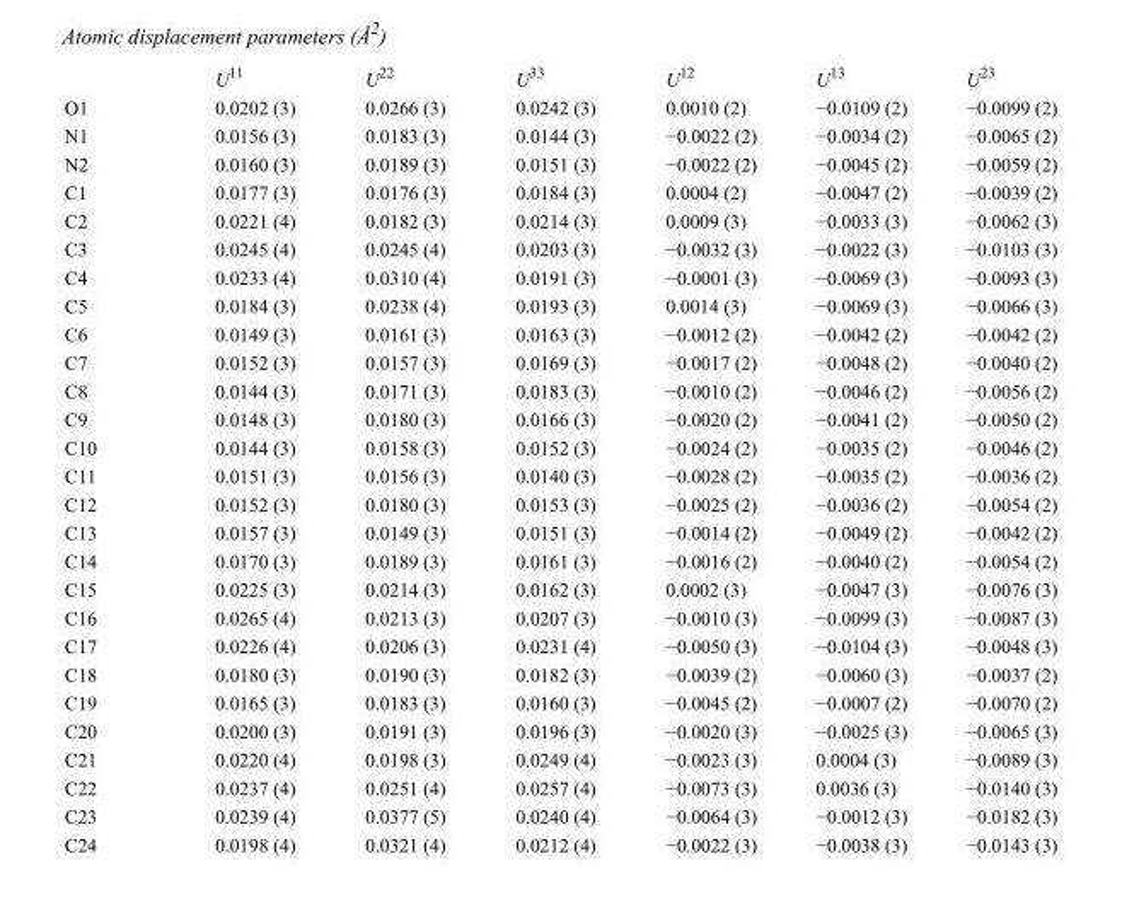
<table><thead><tr><td></td><td>U<sup>11</sup></td><td>U<sup>22</sup></td><td>U<sup>33</sup></td><td>U<sup>12</sup></td><td>U<sup>13</sup></td><td>U<sup>23</sup></td></tr></thead><tbody><tr><td>O1</td><td>0.0202 (3)</td><td>0.0266 (3)</td><td>0.0242 (3)</td><td>0.0010 (2)</td><td>−0.0109 (2)</td><td>−0.0099 (2)</td></tr><tr><td>N1</td><td>0.0156 (3)</td><td>0.0183 (3)</td><td>0.0144 (3)</td><td>−0.0022 (2)</td><td>−0.0034 (2)</td><td>−0.0065 (2)</td></tr><tr><td>N2</td><td>0.0160 (3)</td><td>0.0189 (3)</td><td>0.0151 (3)</td><td>−0.0022 (2)</td><td>−0.0045 (2)</td><td>−0.0059 (2)</td></tr><tr><td>C1</td><td>0.0177 (3)</td><td>0.0176 (3)</td><td>0.0184 (3)</td><td>0.0004 (2)</td><td>−0.0047 (2)</td><td>−0.0039 (2)</td></tr><tr><td>C2</td><td>0.0221 (4)</td><td>0.0182 (3)</td><td>0.0214 (3)</td><td>0.0009 (3)</td><td>−0.0033 (3)</td><td>−0.0062 (3)</td></tr><tr><td>C3</td><td>0.0245 (4)</td><td>0.0245 (4)</td><td>0.0203 (3)</td><td>−0.0032 (3)</td><td>−0.0022 (3)</td><td>−0.0103 (3)</td></tr><tr><td>C4</td><td>0.0233 (4)</td><td>0.0310 (4)</td><td>0.0191 (3)</td><td>−0.0001 (3)</td><td>−0.0069 (3)</td><td>−0.0093 (3)</td></tr><tr><td>C5</td><td>0.0184 (3)</td><td>0.0238 (4)</td><td>0.0193 (3)</td><td>0.0014 (3)</td><td>−0.0069 (3)</td><td>−0.0066 (3)</td></tr><tr><td>C6</td><td>0.0149 (3)</td><td>0.0161 (3)</td><td>0.0163 (3)</td><td>−0.0012 (2)</td><td>−0.0042 (2)</td><td>−0.0042 (2)</td></tr><tr><td>C7</td><td>0.0152 (3)</td><td>0.0157 (3)</td><td>0.0169 (3)</td><td>−0.0017 (2)</td><td>−0.0048 (2)</td><td>−0.0040 (2)</td></tr><tr><td>C8</td><td>0.0144 (3)</td><td>0.0171 (3)</td><td>0.0183 (3)</td><td>−0.0010 (2)</td><td>−0.0046 (2)</td><td>−0.0056 (2)</td></tr><tr><td>C9</td><td>0.0148 (3)</td><td>0.0180 (3)</td><td>0.0166 (3)</td><td>−0.0020 (2)</td><td>−0.0041 (2)</td><td>−0.0050 (2)</td></tr><tr><td>C10</td><td>0.0144 (3)</td><td>0.0158 (3)</td><td>0.0152 (3)</td><td>−0.0024 (2)</td><td>−0.0035 (2)</td><td>−0.0046 (2)</td></tr><tr><td>C11</td><td>0.0151 (3)</td><td>0.0156 (3)</td><td>0.0140 (3)</td><td>−0.0028 (2)</td><td>−0.0035 (2)</td><td>−0.0036 (2)</td></tr><tr><td>C12</td><td>0.0152 (3)</td><td>0.0180 (3)</td><td>0.0153 (3)</td><td>−0.0025 (2)</td><td>−0.0036 (2)</td><td>−0.0054 (2)</td></tr><tr><td>C13</td><td>0.0157 (3)</td><td>0.0149 (3)</td><td>0.0151 (3)</td><td>−0.0014 (2)</td><td>−0.0049 (2)</td><td>−0.0042 (2)</td></tr><tr><td>C14</td><td>0.0170 (3)</td><td>0.0189 (3)</td><td>0.0161 (3)</td><td>−0.0016 (2)</td><td>−0.0040 (2)</td><td>−0.0054 (2)</td></tr><tr><td>C15</td><td>0.0225 (3)</td><td>0.0214 (3)</td><td>0.0162 (3)</td><td>0.0002 (3)</td><td>−0.0047 (3)</td><td>−0.0076 (3)</td></tr><tr><td>C16</td><td>0.0265 (4)</td><td>0.0213 (3)</td><td>0.0207 (3)</td><td>−0.0010 (3)</td><td>−0.0099 (3)</td><td>−0.0087 (3)</td></tr><tr><td>C17</td><td>0.0226 (4)</td><td>0.0206 (3)</td><td>0.0231 (4)</td><td>−0.0050 (3)</td><td>−0.0104 (3)</td><td>−0.0048 (3)</td></tr><tr><td>C18</td><td>0.0180 (3)</td><td>0.0190 (3)</td><td>0.0182 (3)</td><td>−0.0039 (2)</td><td>−0.0060 (3)</td><td>−0.0037 (2)</td></tr><tr><td>C19</td><td>0.0165 (3)</td><td>0.0183 (3)</td><td>0.0160 (3)</td><td>−0.0045 (2)</td><td>−0.0007 (2)</td><td>−0.0070 (2)</td></tr><tr><td>C20</td><td>0.0200 (3)</td><td>0.0191 (3)</td><td>0.0196 (3)</td><td>−0.0020 (3)</td><td>−0.0025 (3)</td><td>−0.0065 (3)</td></tr><tr><td>C21</td><td>0.0220 (4)</td><td>0.0198 (3)</td><td>0.0249 (4)</td><td>−0.0023 (3)</td><td>0.0004 (3)</td><td>−0.0089 (3)</td></tr><tr><td>C22</td><td>0.0237 (4)</td><td>0.0251 (4)</td><td>0.0257 (4)</td><td>−0.0073 (3)</td><td>0.0036 (3)</td><td>−0.0140 (3)</td></tr><tr><td>C23</td><td>0.0239 (4)</td><td>0.0377 (5)</td><td>0.0240 (4)</td><td>−0.0064 (3)</td><td>−0.0012 (3)</td><td>−0.0182 (3)</td></tr><tr><td>C24</td><td>0.0198 (4)</td><td>0.0321 (4)</td><td>0.0212 (4)</td><td>−0.0022 (3)</td><td>−0.0038 (3)</td><td>−0.0143 (3)</td></tr></tbody></table>